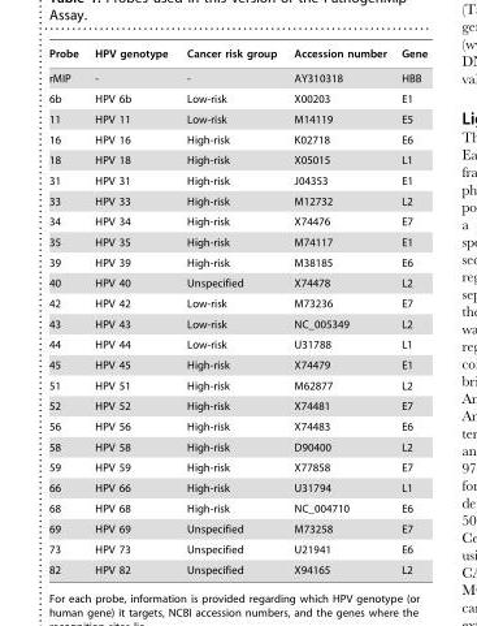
<table><thead><tr><td>Probe</td><td>HPV genotype</td><td>Cancer risk group</td><td>Accession number</td><td>Gene</td></tr></thead><tbody><tr><td>rMIP</td><td>-</td><td>-</td><td>AY310318</td><td>HBB</td></tr><tr><td>6b</td><td>HPV 6b</td><td>Low-risk</td><td>X00203</td><td>E1</td></tr><tr><td>11</td><td>HPV 11</td><td>Low-risk</td><td>M14119</td><td>E5</td></tr><tr><td>16</td><td>HPV 16</td><td>High-risk</td><td>K02718</td><td>E6</td></tr><tr><td>18</td><td>HPV 18</td><td>High-risk</td><td>X05015</td><td>L1</td></tr><tr><td>31</td><td>HPV 31</td><td>High-risk</td><td>J04353</td><td>E1</td></tr><tr><td>33</td><td>HPV 33</td><td>High-risk</td><td>M12732</td><td>L2</td></tr><tr><td>34</td><td>HPV 34</td><td>High-risk</td><td>X74476</td><td>E7</td></tr><tr><td>35</td><td>HPV 35</td><td>High-risk</td><td>M74117</td><td>E1</td></tr><tr><td>39</td><td>HPV 39</td><td>High-risk</td><td>M38185</td><td>E6</td></tr><tr><td>40</td><td>HPV 40</td><td>Unspecified</td><td>X74478</td><td>L2</td></tr><tr><td>42</td><td>HPV 42</td><td>Low-risk</td><td>M73236</td><td>E7</td></tr><tr><td>43</td><td>HPV 43</td><td>Low-risk</td><td>NC_005349</td><td>L2</td></tr><tr><td>44</td><td>HPV 44</td><td>Low-risk</td><td>U31788</td><td>L1</td></tr><tr><td>45</td><td>HPV 45</td><td>High-risk</td><td>X74479</td><td>E1</td></tr><tr><td>51</td><td>HPV 51</td><td>High-risk</td><td>M62877</td><td>L2</td></tr><tr><td>52</td><td>HPV 52</td><td>High-risk</td><td>X74481</td><td>E7</td></tr><tr><td>56</td><td>HPV 56</td><td>High-risk</td><td>X74483</td><td>E6</td></tr><tr><td>58</td><td>HPV 58</td><td>High-risk</td><td>D90400</td><td>L2</td></tr><tr><td>59</td><td>HPV 59</td><td>High-risk</td><td>X77858</td><td>E7</td></tr><tr><td>66</td><td>HPV 66</td><td>High-risk</td><td>U31794</td><td>L1</td></tr><tr><td>68</td><td>HPV 68</td><td>High-risk</td><td>NC_004710</td><td>E6</td></tr><tr><td>69</td><td>HPV 69</td><td>Unspecified</td><td>M73258</td><td>E7</td></tr><tr><td>73</td><td>HPV 73</td><td>Unspecified</td><td>U21941</td><td>E6</td></tr><tr><td>82</td><td>HPV 82</td><td>Unspecified</td><td>X94165</td><td>L2</td></tr></tbody></table>